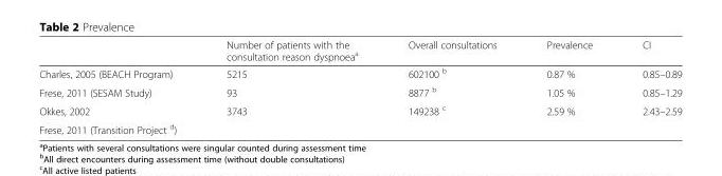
<table><thead><tr><td></td><td>Number of patients with the consultation reason dyspnoea<sup>a</sup></td><td>Overall consultations</td><td>Prevalence</td><td>CI</td></tr></thead><tbody><tr><td>Charles, 2005 (BEACH Program)</td><td>5215</td><td>602100 <sup>b</sup></td><td>0.87 %</td><td>0.85–0.89</td></tr><tr><td>Frese, 2011 (SESAM Study)</td><td>93</td><td>8877 <sup>b</sup></td><td>1.05 %</td><td>0.85–1.29</td></tr><tr><td>Okkes, 2002</td><td rowspan="2">3743</td><td rowspan="2">149238 <sup>c</sup></td><td rowspan="2">2.59 %</td><td rowspan="2">2.43–2.59</td></tr><tr><td>Frese, 2011 (Transition Project <sup>d</sup>)</td></tr></tbody></table>